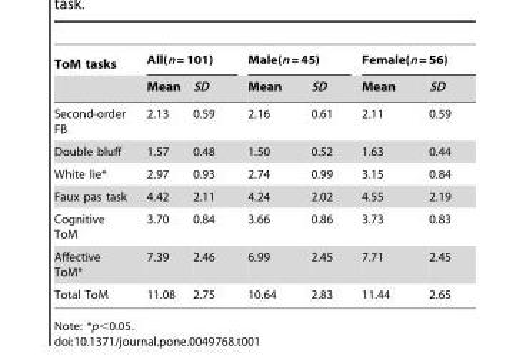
<table><thead><tr><td rowspan="2">ToM tasks</td><td colspan="2">All(n = 101)</td><td colspan="2">Male(n = 45)</td><td colspan="2">Female(n = 56)</td></tr><tr><td>Mean</td><td>SD</td><td>Mean</td><td>SD</td><td>Mean</td><td>SD</td></tr></thead><tbody><tr><td>Second-order FB</td><td>2.13</td><td>0.59</td><td>2.16</td><td>0.61</td><td>2.11</td><td>0.59</td></tr><tr><td>Double bluff</td><td>1.57</td><td>0.48</td><td>1.50</td><td>0.52</td><td>1.63</td><td>0.44</td></tr><tr><td>White lie*</td><td>2.97</td><td>0.93</td><td>2.74</td><td>0.99</td><td>3.15</td><td>0.84</td></tr><tr><td>Faux pas task</td><td>4.42</td><td>2.11</td><td>4.24</td><td>2.02</td><td>4.55</td><td>2.19</td></tr><tr><td>Cognitive ToM</td><td>3.70</td><td>0.84</td><td>3.66</td><td>0.86</td><td>3.73</td><td>0.83</td></tr><tr><td>Affective ToM*</td><td>7.39</td><td>2.46</td><td>6.99</td><td>2.45</td><td>7.71</td><td>2.45</td></tr><tr><td>Total ToM</td><td>11.08</td><td>2.75</td><td>10.64</td><td>2.83</td><td>11.44</td><td>2.65</td></tr></tbody></table>